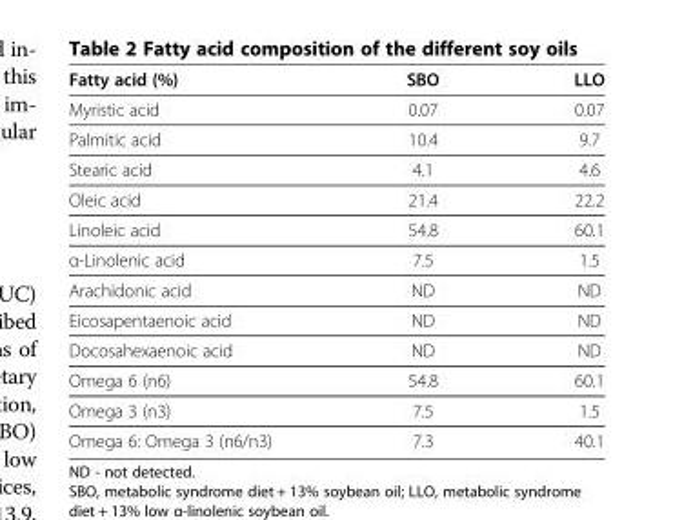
<table><thead><tr><td>Fatty acid (%)</td><td>SBO</td><td>LLO</td></tr></thead><tbody><tr><td>Myristic acid</td><td>0.07</td><td>0.07</td></tr><tr><td>Palmitic acid</td><td>10.4</td><td>9.7</td></tr><tr><td>Stearic acid</td><td>4.1</td><td>4.6</td></tr><tr><td>Oleic acid</td><td>21.4</td><td>22.2</td></tr><tr><td>Linoleic acid</td><td>54.8</td><td>60.1</td></tr><tr><td>α-Linolenic acid</td><td>7.5</td><td>1.5</td></tr><tr><td>Arachidonic acid</td><td>ND</td><td>ND</td></tr><tr><td>Eicosapentaenoic acid</td><td>ND</td><td>ND</td></tr><tr><td>Docosahexaenoic acid</td><td>ND</td><td>ND</td></tr><tr><td>Omega 6 (n6)</td><td>54.8</td><td>60.1</td></tr><tr><td>Omega 3 (n3)</td><td>7.5</td><td>1.5</td></tr><tr><td>Omega 6: Omega 3 (n6/n3)</td><td>7.3</td><td>40.1</td></tr></tbody></table>